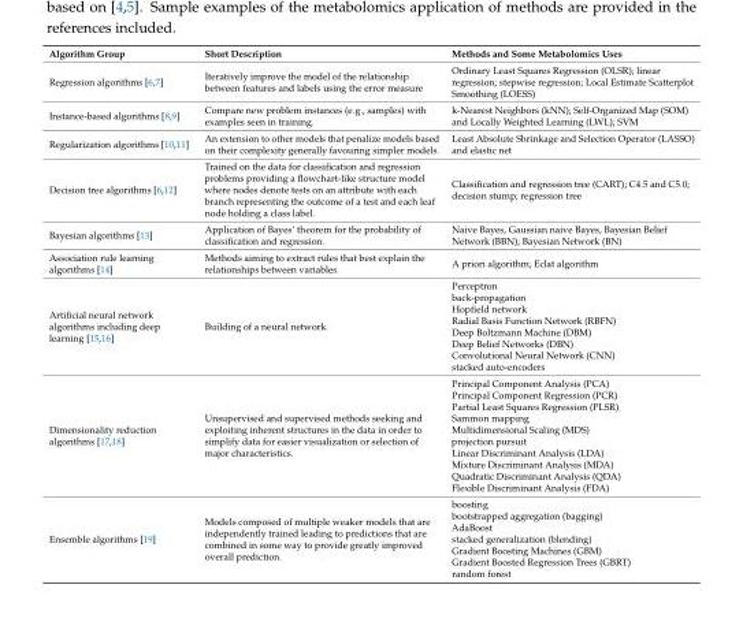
<table><thead><tr><td>Algorithm Group</td><td>Short Description</td><td>Methods and Some Metabolomics Uses</td></tr></thead><tbody><tr><td>Regression algorithms [6,7]</td><td>Iteratively improve the model of the relationship between features and labels using the error measure</td><td>Ordinary Least Squares Regression (OLSR); linear regression; stepwise regression; Local Estimate Scatterplot Smoothing (LOESS)</td></tr><tr><td>Instance-based algorithms [8,9]</td><td>Compare new problem instances (e.g., samples) with examples seen in training.</td><td>k-Nearest Neighbors (kNN); Self-Organized Map (SOM) and Locally Weighted Learning (LWL); SVM</td></tr><tr><td>Regularization algorithms [10,11]</td><td>An extension to other models that penalize models based on their complexity generally favouring simpler models.</td><td>Least Absolute Shrinkage and Selection Operator (LASSO) and elastic net</td></tr><tr><td>Decision tree algorithms [6,12]</td><td>Trained on the data for classification and regression problems providing a flowchart-like structure model where nodes denote tests on an attribute with each branch representing the outcome of a test and each leaf node holding a class label.</td><td>Classification and regression tree (CART); C4.5 and C5.0; decision stump; regression tree</td></tr><tr><td>Bayesian algorithms [13]</td><td>Application of Bayes’ theorem for the probability of classification and regression.</td><td>Naive Bayes, Gaussian naive Bayes, Bayesian Belief Network (BBN); Bayesian Network (BN)</td></tr><tr><td>Association rule learning algorithms [14]</td><td>Methods aiming to extract rules that best explain the relationships between variables.</td><td>A priori algorithm; Eclat algorithm</td></tr><tr><td>Artificial neural network algorithms including deep learning [15,16]</td><td>Building of a neural network.</td><td>Perceptron back-propagation Hopfield network Radial Basis Function Network (RBFN) Deep Boltzmann Machine (DBM) Deep Belief Networks (DBN) Convolutional Neural Network (CNN) stacked auto-encoders</td></tr><tr><td>Dimensionality reduction algorithms [17,18]</td><td>Unsupervised and supervised methods seeking and exploiting inherent structures in the data in order to simplify data for easier visualization or selection of major characteristics.</td><td>Principal Component Analysis (PCA) Principal Component Regression (PCR) Partial Least Squares Regression (PLSR) Sammon mapping Multidimensional Scaling (MDS) projection pursuit Linear Discriminant Analysis (LDA) Mixture Discriminant Analysis (MDA) Quadratic Discriminant Analysis (QDA) Flexible Discriminant Analysis (FDA)</td></tr><tr><td>Ensemble algorithms [19]</td><td>Models composed of multiple weaker models that are independently trained leading to predictions that are combined in some way to provide greatly improved overall prediction.</td><td>boosting bootstrapped aggregation (bagging) AdaBoost stacked generalization (blending) Gradient Boosting Machines (GBM) Gradient Boosted Regression Trees (GBRT) random forest</td></tr></tbody></table>